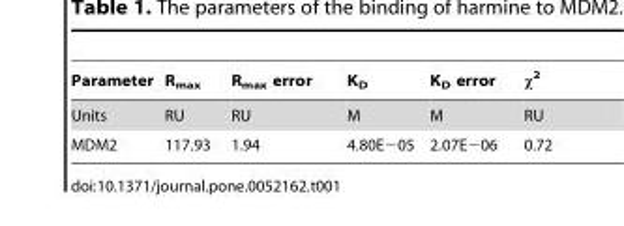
<table><thead><tr><td>Parameter</td><td>R<sub>max</sub></td><td>R<sub>max</sub> error</td><td>K<sub>D</sub></td><td>K<sub>D</sub> error</td><td>χ<sup>2</sup></td></tr></thead><tbody><tr><td>Units</td><td>RU</td><td>RU</td><td>M</td><td>M</td><td>RU</td></tr><tr><td>MDM2</td><td>117.93</td><td>1.94</td><td>4.80E−05</td><td>2.07E−06</td><td>0.72</td></tr></tbody></table>